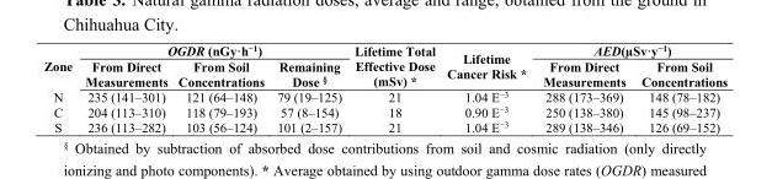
<table><thead><tr><td rowspan="2">Zone</td><td colspan="3">OGDR (nGy·h<sup>−1</sup>)</td><td rowspan="2">Lifetime Total Effective Dose (mSv) *</td><td rowspan="2">Lifetime Cancer Risk *</td><td colspan="2">AED(µSv·y<sup>−1</sup>)</td></tr><tr><td>From Direct Measurements</td><td>From Soil Concentrations</td><td>Remaining Dose <sup>§</sup></td><td>From Direct Measurements</td><td>From Soil Concentrations</td></tr></thead><tbody><tr><td>N</td><td>235 (141–301)</td><td>121 (64–148)</td><td>79 (19–125)</td><td>21</td><td>1.04 E<sup>−3</sup></td><td>288 (173–369)</td><td>148 (78–182)</td></tr><tr><td>C</td><td>204 (113–310)</td><td>118 (79–193)</td><td>57 (8–154)</td><td>18</td><td>0.90 E<sup>−3</sup></td><td>250 (138–380)</td><td>145 (98–237)</td></tr><tr><td>S</td><td>236 (113–282)</td><td>103 (56–124)</td><td>101 (2–157)</td><td>21</td><td>1.04 E<sup>−3</sup></td><td>289 (138–346)</td><td>126 (69–152)</td></tr></tbody></table>